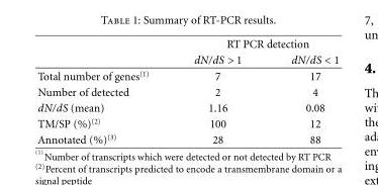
<table><thead><tr><td rowspan="2"></td><td colspan="2">RT PCR detection</td></tr><tr><td>dN/dS &gt; 1</td><td>dN/dS &lt; 1</td></tr></thead><tbody><tr><td>Total number of genes<sup>(1)</sup></td><td>7</td><td>17</td></tr><tr><td>Number of detected</td><td>2</td><td>4</td></tr><tr><td>dN/dS (mean)</td><td>1.16</td><td>0.08</td></tr><tr><td>TM/SP (%)<sup>(2)</sup></td><td>100</td><td>12</td></tr><tr><td>Annotated (%)<sup>(3)</sup></td><td>28</td><td>88</td></tr></tbody></table>